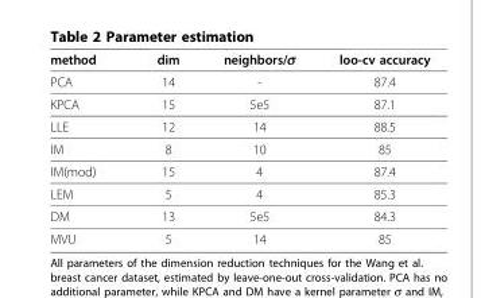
<table><thead><tr><td>method</td><td>dim</td><td>neighbors/σ</td><td>loo-cv accuracy</td></tr></thead><tbody><tr><td>PCA</td><td>14</td><td>-</td><td>87.4</td></tr><tr><td>KPCA</td><td>15</td><td>5e5</td><td>87.1</td></tr><tr><td>LLE</td><td>12</td><td>14</td><td>88.5</td></tr><tr><td>IM</td><td>8</td><td>10</td><td>85</td></tr><tr><td>IM(mod)</td><td>15</td><td>4</td><td>87.4</td></tr><tr><td>LEM</td><td>5</td><td>4</td><td>85.3</td></tr><tr><td>DM</td><td>13</td><td>5e5</td><td>84.3</td></tr><tr><td>MVU</td><td>5</td><td>14</td><td>85</td></tr></tbody></table>